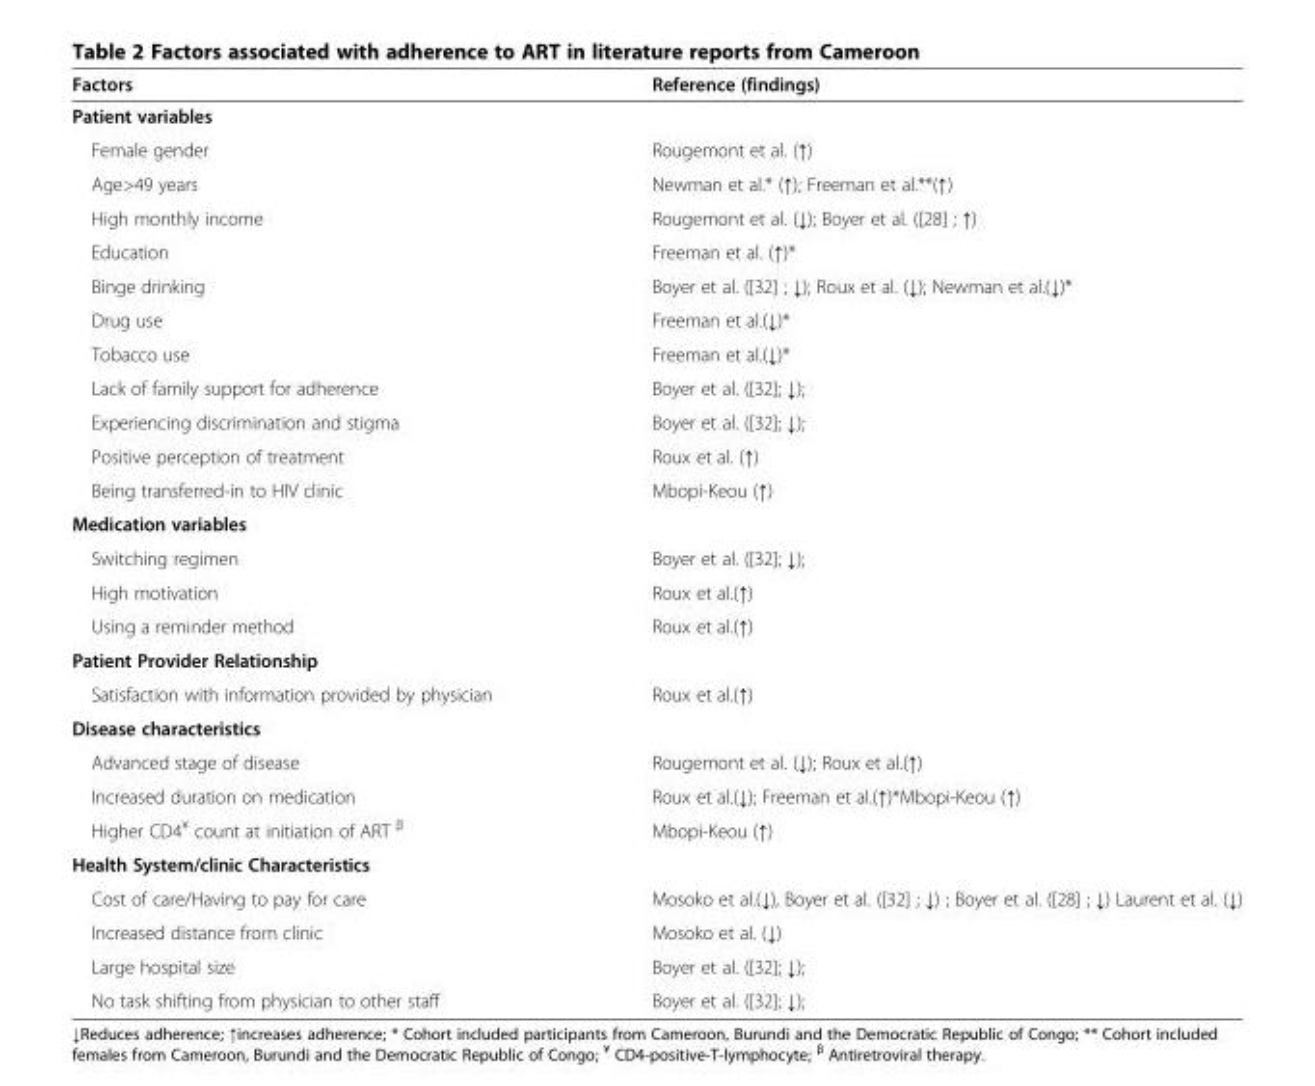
<table><thead><tr><td>Factors</td><td>Reference (findings)</td></tr></thead><tbody><tr><td colspan="2">Patient variables</td></tr><tr><td>Female gender</td><td>Rougemont et al. (↑)</td></tr><tr><td>Age&gt;49 years</td><td>Newman et al.* (↑); Freeman et al.**(↑)</td></tr><tr><td>High monthly income</td><td>Rougemont et al. (↓); Boyer et al. ([28] ; ↑)</td></tr><tr><td>Education</td><td>Freeman et al. (↑)*</td></tr><tr><td>Binge drinking</td><td>Boyer et al. ([32] ; ↓); Roux et al. (↓); Newman et al.(↓)*</td></tr><tr><td>Drug use</td><td>Freeman et al.(↓)*</td></tr><tr><td>Tobacco use</td><td>Freeman et al.(↓)*</td></tr><tr><td>Lack of family support for adherence</td><td>Boyer et al. ([32]; ↓);</td></tr><tr><td>Experiencing discrimination and stigma</td><td>Boyer et al. ([32]; ↓);</td></tr><tr><td>Positive perception of treatment</td><td>Roux et al. (↑)</td></tr><tr><td>Being transferred-in to HIV clinic</td><td>Mbopi-Keou (↑)</td></tr><tr><td colspan="2">Medication variables</td></tr><tr><td>Switching regimen</td><td>Boyer et al. ([32]; ↓);</td></tr><tr><td>High motivation</td><td>Roux et al.(↑)</td></tr><tr><td>Using a reminder method</td><td>Roux et al.(↑)</td></tr><tr><td colspan="2">Patient Provider Relationship</td></tr><tr><td>Satisfaction with information provided by physician</td><td>Roux et al.(↑)</td></tr><tr><td colspan="2">Disease characteristics</td></tr><tr><td>Advanced stage of disease</td><td>Rougemont et al. (↓); Roux et al.(↑)</td></tr><tr><td>Increased duration on medication</td><td>Roux et al.(↓); Freeman et al.(↑)*Mbopi-Keou (↑)</td></tr><tr><td>Higher CD4<sup>¥</sup> count at initiation of ART <sup>β</sup></td><td>Mbopi-Keou (↑)</td></tr><tr><td colspan="2">Health System/clinic Characteristics</td></tr><tr><td>Cost of care/Having to pay for care</td><td>Mosoko et al.(↓), Boyer et al. ([32] ; ↓) ; Boyer et al. ([28] ; ↓) Laurent et al. (↓)</td></tr><tr><td>Increased distance from clinic</td><td>Mosoko et al. (↓)</td></tr><tr><td>Large hospital size</td><td>Boyer et al. ([32]; ↓);</td></tr><tr><td>No task shifting from physician to other staff</td><td>Boyer et al. ([32]; ↓);</td></tr></tbody></table>